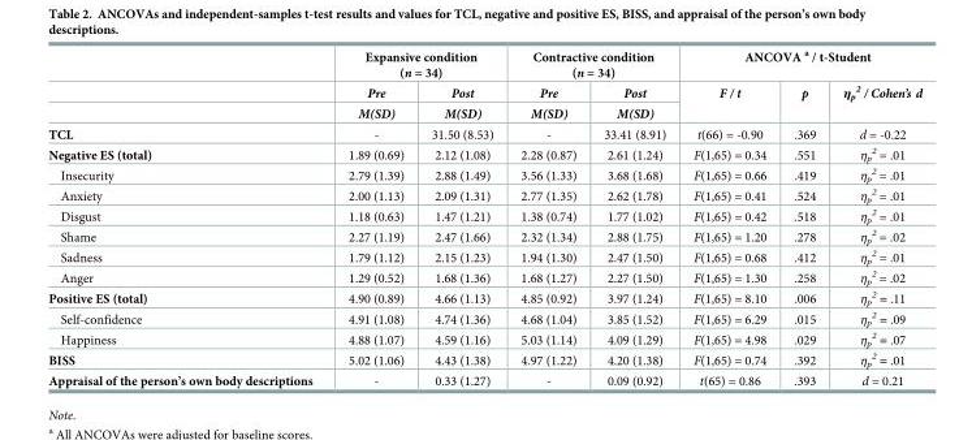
<table><thead><tr><td rowspan="3"></td><td colspan="2">Expansive condition (n = 34)</td><td colspan="2">Contractive condition (n = 34)</td><td colspan="3">ANCOVA <sup>a</sup> / t-Student</td></tr><tr><td rowspan="2">Pre M(SD)</td><td rowspan="2">Post M(SD)</td><td rowspan="2">Pre M(SD)</td><td rowspan="2">Post M(SD)</td><td rowspan="2">F / t</td><td rowspan="2">p</td><td rowspan="2">η<sub>p</sub> <sup>2</sup> / Cohen’s d</td></tr><tr></tr></thead><tbody><tr><td>TCL</td><td>-</td><td>31.50 (8.53)</td><td>-</td><td>33.41 (8.91)</td><td>t(66) = -0.90</td><td>.369</td><td>d = -0.22</td></tr><tr><td>Negative ES (total)</td><td>1.89 (0.69)</td><td>2.12 (1.08)</td><td>2.28 (0.87)</td><td>2.61 (1.24)</td><td>F(1,65) = 0.34</td><td>.551</td><td>η<sub>p</sub> <sup>2</sup> = .01</td></tr><tr><td>Insecurity</td><td>2.79 (1.39)</td><td>2.88 (1.49)</td><td>3.56 (1.33)</td><td>3.68 (1.68)</td><td>F(1,65) = 0.66</td><td>.419</td><td>η<sub>p</sub> <sup>2</sup> = .01</td></tr><tr><td>Anxiety</td><td>2.00 (1.13)</td><td>2.09 (1.31)</td><td>2.77 (1.35)</td><td>2.62 (1.78)</td><td>F(1,65) = 0.41</td><td>.524</td><td>η<sub>p</sub> <sup>2</sup> = .01</td></tr><tr><td>Disgust</td><td>1.18 (0.63)</td><td>1.47 (1.21)</td><td>1.38 (0.74)</td><td>1.77 (1.02)</td><td>F(1,65) = 0.42</td><td>.518</td><td>η<sub>p</sub> <sup>2</sup> = .01</td></tr><tr><td>Shame</td><td>2.27 (1.19)</td><td>2.47 (1.66)</td><td>2.32 (1.34)</td><td>2.88 (1.75)</td><td>F(1,65) = 1.20</td><td>.278</td><td>η<sub>p</sub> <sup>2</sup> = .02</td></tr><tr><td>Sadness</td><td>1.79 (1.12)</td><td>2.15 (1.23)</td><td>1.94 (1.30)</td><td>2.47 (1.50)</td><td>F(1,65) = 0.68</td><td>.412</td><td>η<sub>p</sub> <sup>2</sup> = .01</td></tr><tr><td>Anger</td><td>1.29 (0.52)</td><td>1.68 (1.36)</td><td>1.68 (1.27)</td><td>2.27 (1.50)</td><td>F(1,65) = 1.30</td><td>.258</td><td>η<sub>p</sub> <sup>2</sup> = .02</td></tr><tr><td>Positive ES (total)</td><td>4.90 (0.89)</td><td>4.66 (1.13)</td><td>4.85 (0.92)</td><td>3.97 (1.24)</td><td>F(1,65) = 8.10</td><td>.006</td><td>η<sub>p</sub> <sup>2</sup> = .11</td></tr><tr><td>Self-confidence</td><td>4.91 (1.08)</td><td>4.74 (1.36)</td><td>4.68 (1.04)</td><td>3.85 (1.52)</td><td>F(1,65) = 6.29</td><td>.015</td><td>η<sub>p</sub> <sup>2</sup> = .09</td></tr><tr><td>Happiness</td><td>4.88 (1.07)</td><td>4.59 (1.16)</td><td>5.03 (1.14)</td><td>4.09 (1.29)</td><td>F(1,65) = 4.98</td><td>.029</td><td>η<sub>p</sub> <sup>2</sup> = .07</td></tr><tr><td>BISS</td><td>5.02 (1.06)</td><td>4.43 (1.38)</td><td>4.97 (1.22)</td><td>4.20 (1.38)</td><td>F(1,65) = 0.74</td><td>.392</td><td>η<sub>p</sub> <sup>2</sup> = .01</td></tr><tr><td>Appraisal of the person’s own body descriptions</td><td>-</td><td>0.33 (1.27)</td><td>-</td><td>0.09 (0.92)</td><td>t(65) = 0.86</td><td>.393</td><td>d = 0.21</td></tr></tbody></table>